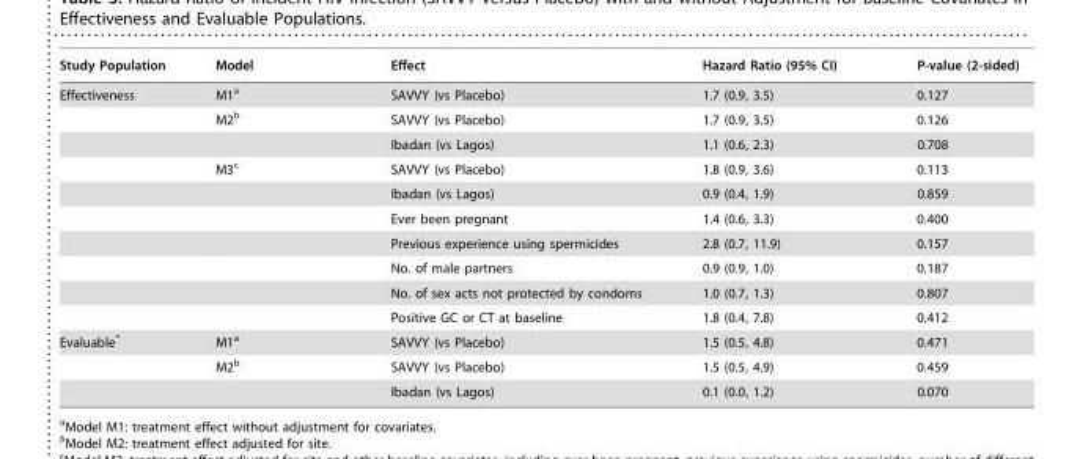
<table><thead><tr><td>Study Population</td><td>Model</td><td>Effect</td><td>Hazard Ratio (95% CI)</td><td>P-value (2-sided)</td></tr></thead><tbody><tr><td rowspan="10">Effectiveness</td><td>M1<sup>a</sup></td><td>SAVVY (vs Placebo)</td><td>1.7 (0.9, 3.5)</td><td>0.127</td></tr><tr><td>M2<sup>b</sup></td><td>SAVVY (vs Placebo)</td><td>1.7 (0.9, 3.5)</td><td>0.126</td></tr><tr><td></td><td>Ibadan (vs Lagos)</td><td>1.1 (0.6, 2.3)</td><td>0.708</td></tr><tr><td>M3<sup>c</sup></td><td>SAVVY (vs Placebo)</td><td>1.8 (0.9, 3.6)</td><td>0.113</td></tr><tr><td></td><td>Ibadan (vs Lagos)</td><td>0.9 (0.4, 1.9)</td><td>0.859</td></tr><tr><td></td><td>Ever been pregnant</td><td>1.4 (0.6, 3.3)</td><td>0.400</td></tr><tr><td></td><td>Previous experience using spermicides</td><td>2.8 (0.7, 11.9)</td><td>0.157</td></tr><tr><td></td><td>No. of male partners</td><td>0.9 (0.9, 1.0)</td><td>0.187</td></tr><tr><td></td><td>No. of sex acts not protected by condoms</td><td>1.0 (0.7, 1.3)</td><td>0.807</td></tr><tr><td></td><td>Positive GC or CT at baseline</td><td>1.8 (0.4, 7.8)</td><td>0.412</td></tr><tr><td rowspan="3">Evaluable*</td><td>M1<sup>a</sup></td><td>SAVVY (vs Placebo)</td><td>1.5 (0.5, 4.8)</td><td>0.471</td></tr><tr><td>M2<sup>b</sup></td><td>SAVVY (vs Placebo)</td><td>1.5 (0.5, 4.9)</td><td>0.459</td></tr><tr><td></td><td>Ibadan (vs Lagos)</td><td>0.1 (0.0, 1.2)</td><td>0.070</td></tr></tbody></table>